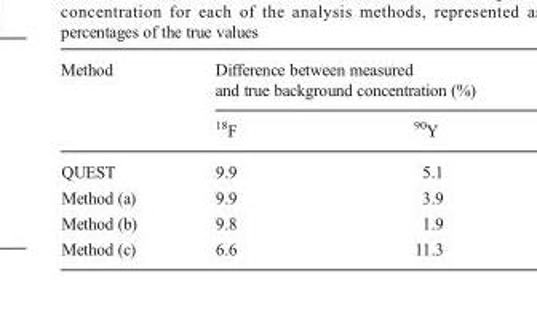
<table><thead><tr><td rowspan="2">Method</td><td colspan="2">Difference between measured and true background concentration (%)</td></tr><tr><td><sup>18</sup>F</td><td><sup>90</sup>Y</td></tr></thead><tbody><tr><td>QUEST</td><td>9.9</td><td>5.1</td></tr><tr><td>Method (a)</td><td>9.9</td><td>3.9</td></tr><tr><td>Method (b)</td><td>9.8</td><td>1.9</td></tr><tr><td>Method (c)</td><td>6.6</td><td>11.3</td></tr></tbody></table>